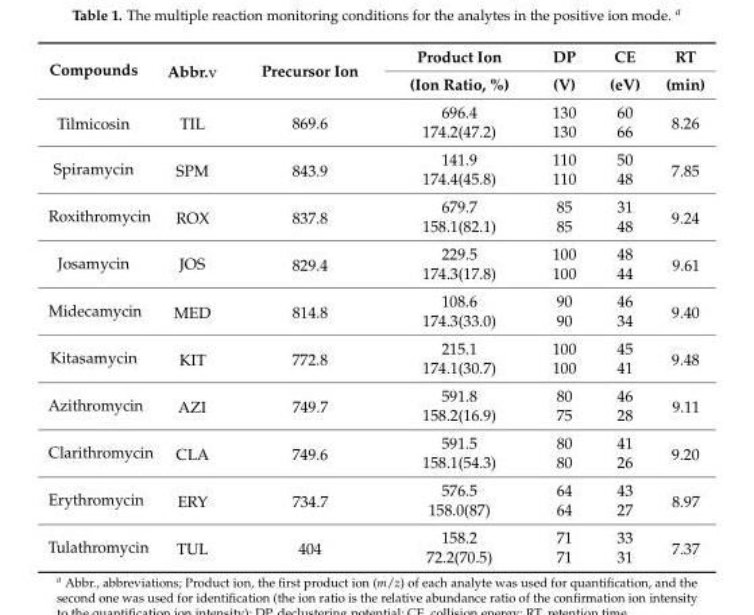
<table><thead><tr><td rowspan="2">Compounds</td><td rowspan="2">Abbr.v</td><td rowspan="2">Precursor Ion</td><td rowspan="2">Product Ion (Ion Ratio, %)</td><td rowspan="2">DP (V)</td><td rowspan="2">CE (eV)</td><td rowspan="2">RT (min)</td></tr><tr></tr></thead><tbody><tr><td rowspan="2">Tilmicosin</td><td rowspan="2">TIL</td><td rowspan="2">869.6</td><td>696.4</td><td>130</td><td>60</td><td rowspan="2">8.26</td></tr><tr><td>174.2(47.2)</td><td>130</td><td>66</td></tr><tr><td rowspan="2">Spiramycin</td><td rowspan="2">SPM</td><td rowspan="2">843.9</td><td>141.9</td><td>110</td><td>50</td><td rowspan="2">7.85</td></tr><tr><td>174.4(45.8)</td><td>110</td><td>48</td></tr><tr><td rowspan="2">Roxithromycin</td><td rowspan="2">ROX</td><td rowspan="2">837.8</td><td>679.7</td><td>85</td><td>31</td><td rowspan="2">9.24</td></tr><tr><td>158.1(82.1)</td><td>85</td><td>48</td></tr><tr><td rowspan="2">Josamycin</td><td rowspan="2">JOS</td><td rowspan="2">829.4</td><td>229.5</td><td>100</td><td>48</td><td rowspan="2">9.61</td></tr><tr><td>174.3(17.8)</td><td>100</td><td>44</td></tr><tr><td rowspan="2">Midecamycin</td><td rowspan="2">MED</td><td rowspan="2">814.8</td><td>108.6</td><td>90</td><td>46</td><td rowspan="2">9.40</td></tr><tr><td>174.3(33.0)</td><td>90</td><td>34</td></tr><tr><td rowspan="2">Kitasamycin</td><td rowspan="2">KIT</td><td rowspan="2">772.8</td><td>215.1</td><td>100</td><td>45</td><td rowspan="2">9.48</td></tr><tr><td>174.1(30.7)</td><td>100</td><td>41</td></tr><tr><td rowspan="2">Azithromycin</td><td rowspan="2">AZI</td><td rowspan="2">749.7</td><td>591.8</td><td>80</td><td>46</td><td rowspan="2">9.11</td></tr><tr><td>158.2(16.9)</td><td>75</td><td>28</td></tr><tr><td rowspan="2">Clarithromycin</td><td rowspan="2">CLA</td><td rowspan="2">749.6</td><td>591.5</td><td>80</td><td>41</td><td rowspan="2">9.20</td></tr><tr><td>158.1(54.3)</td><td>80</td><td>26</td></tr><tr><td rowspan="2">Erythromycin</td><td rowspan="2">ERY</td><td rowspan="2">734.7</td><td>576.5</td><td>64</td><td>43</td><td rowspan="2">8.97</td></tr><tr><td>158.0(87)</td><td>64</td><td>27</td></tr><tr><td rowspan="2">Tulathromycin</td><td rowspan="2">TUL</td><td rowspan="2">404</td><td>158.2</td><td>71</td><td>33</td><td rowspan="2">7.37</td></tr><tr><td>72.2(70.5)</td><td>71</td><td>31</td></tr></tbody></table>